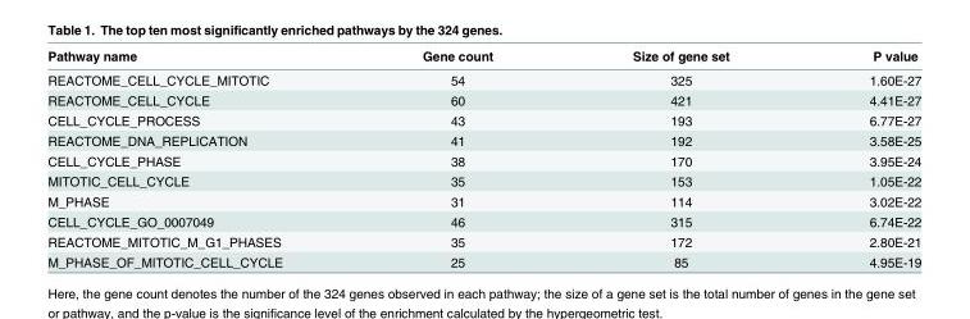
<table><thead><tr><td>Pathway name</td><td>Gene count</td><td>Size of gene set</td><td>P value</td></tr></thead><tbody><tr><td>REACTOME_CELL_CYCLE_MITOTIC</td><td>54</td><td>325</td><td>1.60E-27</td></tr><tr><td>REACTOME_CELL_CYCLE</td><td>60</td><td>421</td><td>4.41E-27</td></tr><tr><td>CELL_CYCLE_PROCESS</td><td>43</td><td>193</td><td>6.77E-27</td></tr><tr><td>REACTOME_DNA_REPLICATION</td><td>41</td><td>192</td><td>3.58E-25</td></tr><tr><td>CELL_CYCLE_PHASE</td><td>38</td><td>170</td><td>3.95E-24</td></tr><tr><td>MITOTIC_CELL_CYCLE</td><td>35</td><td>153</td><td>1.05E-22</td></tr><tr><td>M_PHASE</td><td>31</td><td>114</td><td>3.02E-22</td></tr><tr><td>CELL_CYCLE_GO_0007049</td><td>46</td><td>315</td><td>6.74E-22</td></tr><tr><td>REACTOME_MITOTIC_M_G1_PHASES</td><td>35</td><td>172</td><td>2.80E-21</td></tr><tr><td>M_PHASE_OF_MITOTIC_CELL_CYCLE</td><td>25</td><td>85</td><td>4.95E-19</td></tr></tbody></table>